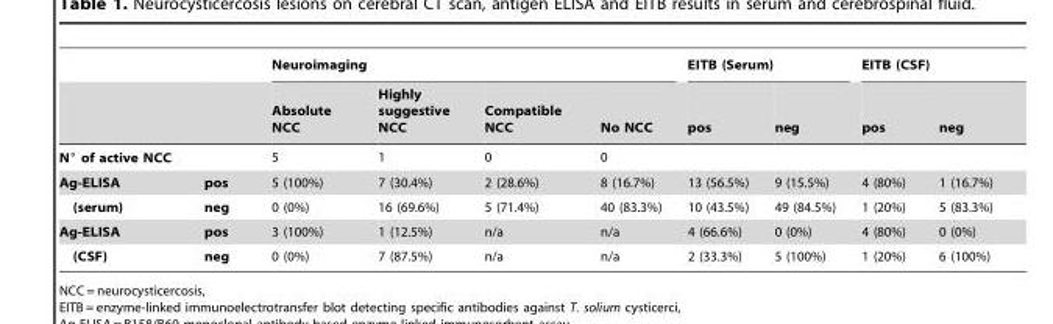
<table><thead><tr><td rowspan="2"></td><td rowspan="2"></td><td colspan="4">Neuroimaging</td><td colspan="2">EITB (Serum)</td><td colspan="2">EITB (CSF)</td></tr><tr><td>Absolute NCC</td><td>Highly suggestive NCC</td><td>Compatible NCC</td><td>No NCC</td><td>pos</td><td>neg</td><td>pos</td><td>neg</td></tr></thead><tbody><tr><td colspan="2">N° of active NCC</td><td>5</td><td>1</td><td>0</td><td>0</td><td></td><td></td><td></td><td></td></tr><tr><td>Ag-ELISA</td><td>pos</td><td>5 (100%)</td><td>7 (30.4%)</td><td>2 (28.6%)</td><td>8 (16.7%)</td><td>13 (56.5%)</td><td>9 (15.5%)</td><td>4 (80%)</td><td>1 (16.7%)</td></tr><tr><td>(serum)</td><td>neg</td><td>0 (0%)</td><td>16 (69.6%)</td><td>5 (71.4%)</td><td>40 (83.3%)</td><td>10 (43.5%)</td><td>49 (84.5%)</td><td>1 (20%)</td><td>5 (83.3%)</td></tr><tr><td>Ag-ELISA</td><td>pos</td><td>3 (100%)</td><td>1 (12.5%)</td><td>n/a</td><td>n/a</td><td>4 (66.6%)</td><td>0 (0%)</td><td>4 (80%)</td><td>0 (0%)</td></tr><tr><td>(CSF)</td><td>neg</td><td>0 (0%)</td><td>7 (87.5%)</td><td>n/a</td><td>n/a</td><td>2 (33.3%)</td><td>5 (100%)</td><td>1 (20%)</td><td>6 (100%)</td></tr></tbody></table>